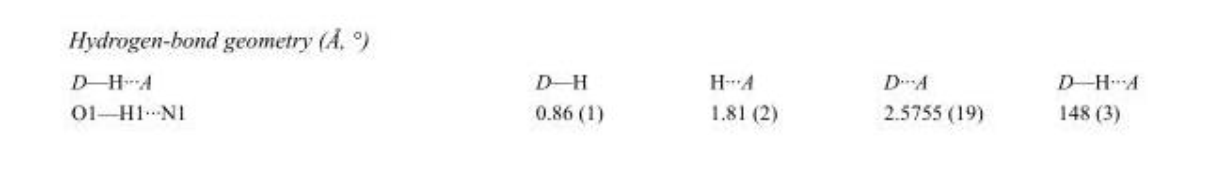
<table><tbody><tr><td>D—H···A</td><td>D—H</td><td>H···A</td><td>D···A</td><td>D—H···A</td></tr><tr><td>O1—H1···N1</td><td>0.86 (1)</td><td>1.81 (2)</td><td>2.5755 (19)</td><td>148 (3)</td></tr></tbody></table>